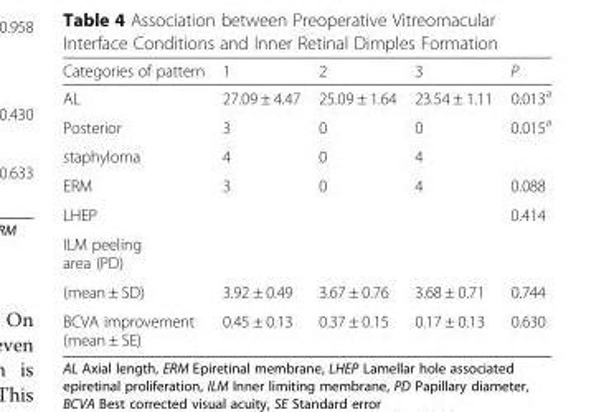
<table><thead><tr><td>Categories of pattern</td><td>1</td><td>2</td><td>3</td><td>P</td></tr></thead><tbody><tr><td>AL</td><td>27.09 ± 4.47</td><td>25.09 ± 1.64</td><td>23.54 ± 1.11</td><td>0.013<sup>a</sup></td></tr><tr><td>Posterior</td><td>3</td><td>0</td><td>0</td><td>0.015<sup>a</sup></td></tr><tr><td>staphyloma</td><td>4</td><td>0</td><td>4</td><td></td></tr><tr><td>ERM</td><td>3</td><td>0</td><td>4</td><td>0.088</td></tr><tr><td colspan="4">LHEP</td><td>0.414</td></tr><tr><td colspan="5">ILM peeling area (PD)</td></tr><tr><td>(mean ± SD)</td><td>3.92 ± 0.49</td><td>3.67 ± 0.76</td><td>3.68 ± 0.71</td><td>0.744</td></tr><tr><td>BCVA improvement (mean ± SE)</td><td>0.45 ± 0.13</td><td>0.37 ± 0.15</td><td>0.17 ± 0.13</td><td>0.630</td></tr></tbody></table>